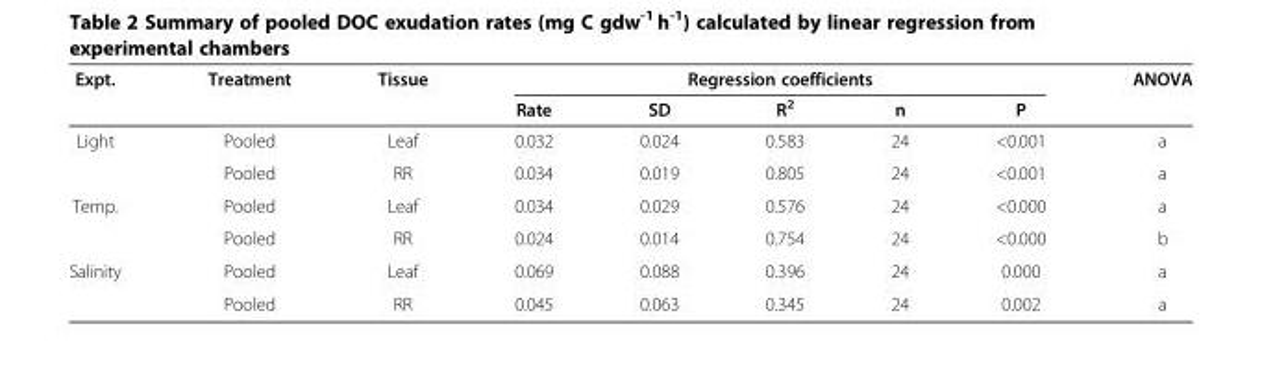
<table><thead><tr><td rowspan="2">Expt.</td><td rowspan="2">Treatment</td><td rowspan="2">Tissue</td><td colspan="5">Regression coefficients</td><td rowspan="2">ANOVA</td></tr><tr><td>Rate</td><td>SD</td><td>R<sup>2</sup></td><td>n</td><td>P</td></tr></thead><tbody><tr><td rowspan="2">Light</td><td>Pooled</td><td>Leaf</td><td>0.032</td><td>0.024</td><td>0.583</td><td>24</td><td>&lt;0.001</td><td>a</td></tr><tr><td>Pooled</td><td>RR</td><td>0.034</td><td>0.019</td><td>0.805</td><td>24</td><td>&lt;0.001</td><td>a</td></tr><tr><td rowspan="2">Temp.</td><td>Pooled</td><td>Leaf</td><td>0.034</td><td>0.029</td><td>0.576</td><td>24</td><td>&lt;0.000</td><td>a</td></tr><tr><td>Pooled</td><td>RR</td><td>0.024</td><td>0.014</td><td>0.754</td><td>24</td><td>&lt;0.000</td><td>b</td></tr><tr><td rowspan="2">Salinity</td><td>Pooled</td><td>Leaf</td><td>0.069</td><td>0.088</td><td>0.396</td><td>24</td><td>0.000</td><td>a</td></tr><tr><td>Pooled</td><td>RR</td><td>0.045</td><td>0.063</td><td>0.345</td><td>24</td><td>0.002</td><td>a</td></tr></tbody></table>